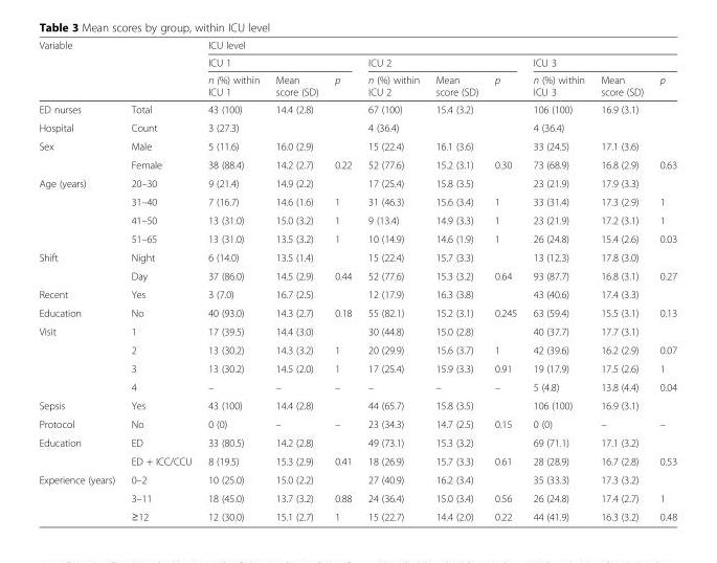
<table><thead><tr><td rowspan="3">Variable</td><td rowspan="3"></td><td colspan="9">ICU level</td></tr><tr><td colspan="3">ICU 1</td><td colspan="3">ICU 2</td><td colspan="3">ICU 3</td></tr><tr><td>n (%) within ICU 1</td><td>Mean score (SD)</td><td>p</td><td>n (%) within ICU 2</td><td>Mean score (SD)</td><td>p</td><td>n (%) within ICU 3</td><td>Mean score (SD)</td><td>p</td></tr></thead><tbody><tr><td>ED nurses</td><td>Total</td><td>43 (100)</td><td>14.4 (2.8)</td><td></td><td>67 (100)</td><td>15.4 (3.2)</td><td></td><td>106 (100)</td><td>16.9 (3.1)</td><td></td></tr><tr><td>Hospital</td><td>Count</td><td>3 (27.3)</td><td></td><td></td><td>4 (36.4)</td><td></td><td></td><td>4 (36.4)</td><td></td><td></td></tr><tr><td rowspan="2">Sex</td><td>Male</td><td>5 (11.6)</td><td>16.0 (2.9)</td><td></td><td>15 (22.4)</td><td>16.1 (3.6)</td><td></td><td>33 (24.5)</td><td>17.1 (3.6)</td><td></td></tr><tr><td>Female</td><td>38 (88.4)</td><td>14.2 (2.7)</td><td>0.22</td><td>52 (77.6)</td><td>15.2 (3.1)</td><td>0.30</td><td>73 (68.9)</td><td>16.8 (2.9)</td><td>0.63</td></tr><tr><td rowspan="4">Age (years)</td><td>20–30</td><td>9 (21.4)</td><td>14.9 (2.2)</td><td></td><td>17 (25.4)</td><td>15.8 (3.5)</td><td></td><td>23 (21.9)</td><td>17.9 (3.3)</td><td></td></tr><tr><td>31–40</td><td>7 (16.7)</td><td>14.6 (1.6)</td><td>1</td><td>31 (46.3)</td><td>15.6 (3.4)</td><td>1</td><td>33 (31.4)</td><td>17.3 (2.9)</td><td>1</td></tr><tr><td>41–50</td><td>13 (31.0)</td><td>15.0 (3.2)</td><td>1</td><td>9 (13.4)</td><td>14.9 (3.3)</td><td>1</td><td>23 (21.9)</td><td>17.2 (3.1)</td><td>1</td></tr><tr><td>51–65</td><td>13 (31.0)</td><td>13.5 (3.2)</td><td>1</td><td>10 (14.9)</td><td>14.6 (1.9)</td><td>1</td><td>26 (24.8)</td><td>15.4 (2.6)</td><td>0.03</td></tr><tr><td rowspan="2">Shift</td><td>Night</td><td>6 (14.0)</td><td>13.5 (1.4)</td><td></td><td>15 (22.4)</td><td>15.7 (3.3)</td><td></td><td>13 (12.3)</td><td>17.8 (3.0)</td><td></td></tr><tr><td>Day</td><td>37 (86.0)</td><td>14.5 (2.9)</td><td>0.44</td><td>52 (77.6)</td><td>15.3 (3.2)</td><td>0.64</td><td>93 (87.7)</td><td>16.8 (3.1)</td><td>0.27</td></tr><tr><td>Recent</td><td>Yes</td><td>3 (7.0)</td><td>16.7 (2.5)</td><td></td><td>12 (17.9)</td><td>16.3 (3.8)</td><td></td><td>43 (40.6)</td><td>17.4 (3.3)</td><td></td></tr><tr><td>Education</td><td>No</td><td>40 (93.0)</td><td>14.3 (2.7)</td><td>0.18</td><td>55 (82.1)</td><td>15.2 (3.1)</td><td>0.245</td><td>63 (59.4)</td><td>15.5 (3.1)</td><td>0.13</td></tr><tr><td rowspan="4">Visit</td><td>1</td><td>17 (39.5)</td><td>14.4 (3.0)</td><td></td><td>30 (44.8)</td><td>15.0 (2.8)</td><td></td><td>40 (37.7)</td><td>17.7 (3.1)</td><td></td></tr><tr><td>2</td><td>13 (30.2)</td><td>14.3 (3.2)</td><td>1</td><td>20 (29.9)</td><td>15.6 (3.7)</td><td>1</td><td>42 (39.6)</td><td>16.2 (2.9)</td><td>0.07</td></tr><tr><td>3</td><td>13 (30.2)</td><td>14.5 (2.0)</td><td>1</td><td>17 (25.4)</td><td>15.9 (3.3)</td><td>0.91</td><td>19 (17.9)</td><td>17.5 (2.6)</td><td>1</td></tr><tr><td>4</td><td>–</td><td>–</td><td>–</td><td>–</td><td>–</td><td>–</td><td>5 (4.8)</td><td>13.8 (4.4)</td><td>0.04</td></tr><tr><td>Sepsis</td><td>Yes</td><td>43 (100)</td><td>14.4 (2.8)</td><td></td><td>44 (65.7)</td><td>15.8 (3.5)</td><td></td><td>106 (100)</td><td>16.9 (3.1)</td><td></td></tr><tr><td>Protocol</td><td>No</td><td>0 (0)</td><td>–</td><td>–</td><td>23 (34.3)</td><td>14.7 (2.5)</td><td>0.15</td><td>0 (0)</td><td>–</td><td>–</td></tr><tr><td rowspan="2">Education</td><td>ED</td><td>33 (80.5)</td><td>14.2 (2.8)</td><td></td><td>49 (73.1)</td><td>15.3 (3.2)</td><td></td><td>69 (71.1)</td><td>17.1 (3.2)</td><td></td></tr><tr><td>ED + ICC/CCU</td><td>8 (19.5)</td><td>15.3 (2.9)</td><td>0.41</td><td>18 (26.9)</td><td>15.7 (3.3)</td><td>0.61</td><td>28 (28.9)</td><td>16.7 (2.8)</td><td>0.53</td></tr><tr><td rowspan="3">Experience (years)</td><td>0–2</td><td>10 (25.0)</td><td>15.0 (2.2)</td><td></td><td>27 (40.9)</td><td>16.2 (3.4)</td><td></td><td>35 (33.3)</td><td>17.3 (3.2)</td><td></td></tr><tr><td>3–11</td><td>18 (45.0)</td><td>13.7 (3.2)</td><td>0.88</td><td>24 (36.4)</td><td>15.0 (3.4)</td><td>0.56</td><td>26 (24.8)</td><td>17.4 (2.7)</td><td>1</td></tr><tr><td>≥12</td><td>12 (30.0)</td><td>15.1 (2.7)</td><td>1</td><td>15 (22.7)</td><td>14.4 (2.0)</td><td>0.22</td><td>44 (41.9)</td><td>16.3 (3.2)</td><td>0.48</td></tr></tbody></table>